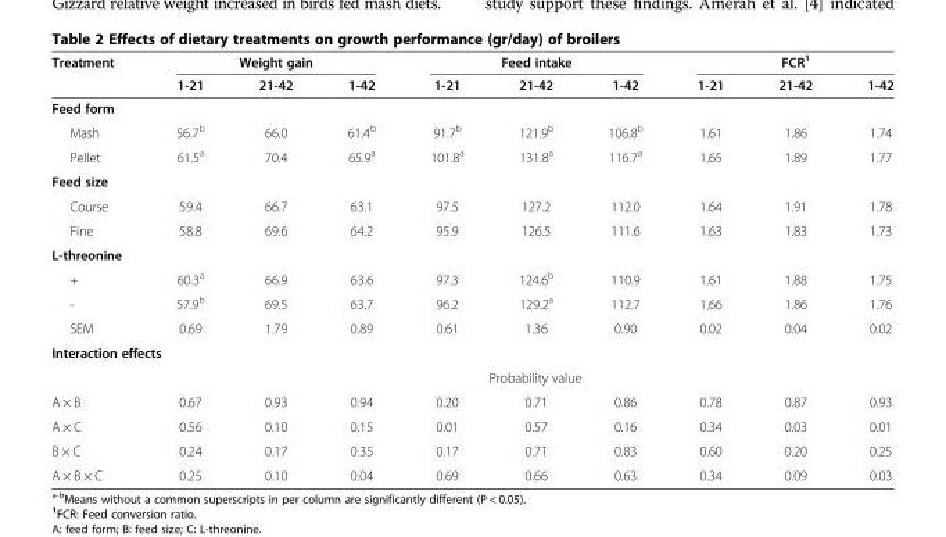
<table><thead><tr><td rowspan="2">Treatment</td><td colspan="3">Weight gain</td><td colspan="3">Feed intake</td><td colspan="3">FCR<sup>1</sup></td></tr><tr><td>1-21</td><td>21-42</td><td>1-42</td><td>1-21</td><td>21-42</td><td>1-42</td><td>1-21</td><td>21-42</td><td>1-42</td></tr></thead><tbody><tr><td colspan="10">Feed form</td></tr><tr><td>Mash</td><td>56.7<sup>b</sup></td><td>66.0</td><td>61.4<sup>b</sup></td><td>91.7<sup>b</sup></td><td>121.9<sup>b</sup></td><td>106.8<sup>b</sup></td><td>1.61</td><td>1.86</td><td>1.74</td></tr><tr><td>Pellet</td><td>61.5<sup>a</sup></td><td>70.4</td><td>65.9<sup>a</sup></td><td>101.8<sup>a</sup></td><td>131.8<sup>a</sup></td><td>116.7<sup>a</sup></td><td>1.65</td><td>1.89</td><td>1.77</td></tr><tr><td colspan="10">Feed size</td></tr><tr><td>Course</td><td>59.4</td><td>66.7</td><td>63.1</td><td>97.5</td><td>127.2</td><td>112.0</td><td>1.64</td><td>1.91</td><td>1.78</td></tr><tr><td>Fine</td><td>58.8</td><td>69.6</td><td>64.2</td><td>95.9</td><td>126.5</td><td>111.6</td><td>1.63</td><td>1.83</td><td>1.73</td></tr><tr><td colspan="10">L-threonine</td></tr><tr><td>+</td><td>60.3<sup>a</sup></td><td>66.9</td><td>63.6</td><td>97.3</td><td>124.6<sup>b</sup></td><td>110.9</td><td>1.61</td><td>1.88</td><td>1.75</td></tr><tr><td>-</td><td>57.9<sup>b</sup></td><td>69.5</td><td>63.7</td><td>96.2</td><td>129.2<sup>a</sup></td><td>112.7</td><td>1.66</td><td>1.86</td><td>1.76</td></tr><tr><td>SEM</td><td>0.69</td><td>1.79</td><td>0.89</td><td>0.61</td><td>1.36</td><td>0.90</td><td>0.02</td><td>0.04</td><td>0.02</td></tr><tr><td colspan="10">Interaction effects</td></tr><tr><td></td><td colspan="9">Probability value</td></tr><tr><td>A × B</td><td>0.67</td><td>0.93</td><td>0.94</td><td>0.20</td><td>0.71</td><td>0.86</td><td>0.78</td><td>0.87</td><td>0.93</td></tr><tr><td>A × C</td><td>0.56</td><td>0.10</td><td>0.15</td><td>0.01</td><td>0.57</td><td>0.16</td><td>0.34</td><td>0.03</td><td>0.01</td></tr><tr><td>B × C</td><td>0.24</td><td>0.17</td><td>0.35</td><td>0.17</td><td>0.71</td><td>0.83</td><td>0.60</td><td>0.20</td><td>0.25</td></tr><tr><td>A × B × C</td><td>0.25</td><td>0.10</td><td>0.04</td><td>0.69</td><td>0.66</td><td>0.63</td><td>0.34</td><td>0.09</td><td>0.03</td></tr></tbody></table>